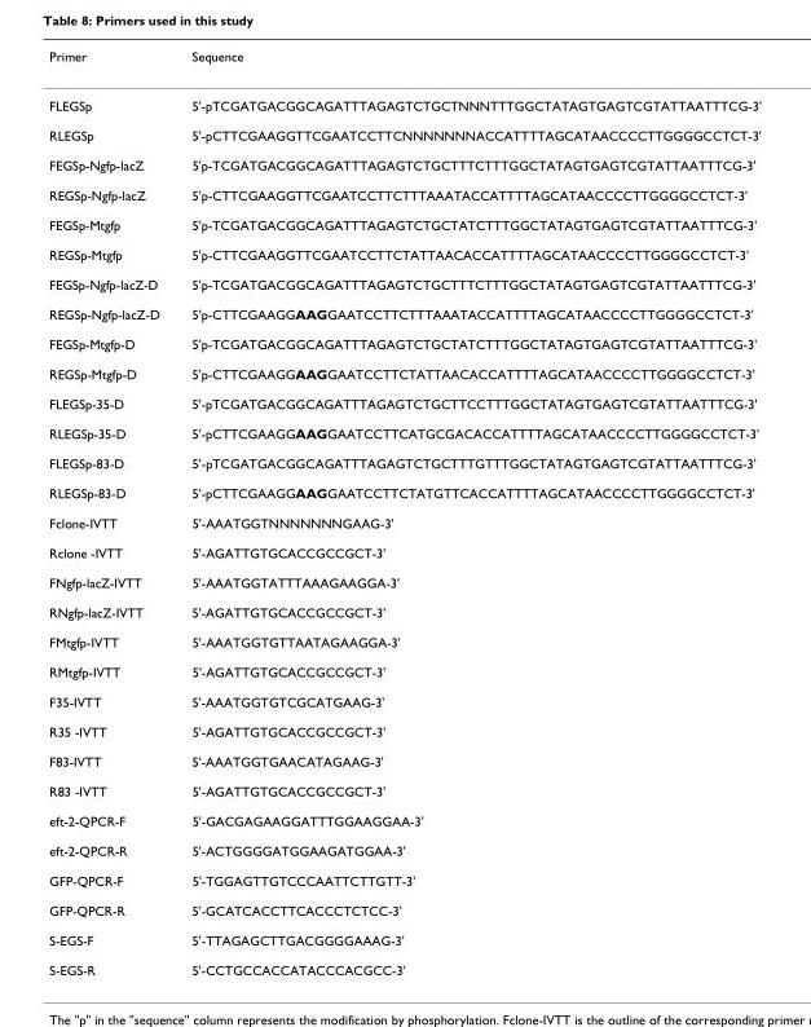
<table><thead><tr><td>Primer</td><td>Sequence</td></tr></thead><tbody><tr><td>FLEGSp</td><td>5&#x27;-pTCGATGACGGCAGATTTAGAGTCTGCTNNNTTTGGCTATAGTGAGTCGTATTAATTTCG-3&#x27;</td></tr><tr><td>RLEGSp</td><td>5&#x27;-pCTTCGAAGGTTCGAATCCTTCNNNNNNNACCATTTTAGCATAACCCCTTGGGGCCTCT-3&#x27;</td></tr><tr><td>FEGSp-Ngfp-lacZ</td><td>5&#x27;p-TCGATGACGGCAGATTTAGAGTCTGCTTTCTTTGGCTATAGTGAGTCGTATTAATTTCG-3&#x27;</td></tr><tr><td>REGSp-Ngfp-lacZ</td><td>5&#x27;p-CTTCGAAGGTTCGAATCCTTCTTTAAATACCATTTTAGCATAACCCCTTGGGGCCTCT-3&#x27;</td></tr><tr><td>FEGSp-Mtgfp</td><td>5&#x27;p-TCGATGACGGCAGATTTAGAGTCTGCTATCTTTGGCTATAGTGAGTCGTATTAATTTCG-3&#x27;</td></tr><tr><td>REGSp-Mtgfp</td><td>5&#x27;p-CTTCGAAGGTTCGAATCCTTCTATTAACACCATTTTAGCATAACCCCTTGGGGCCTCT-3&#x27;</td></tr><tr><td>FEGSp-Ngfp-lacZ-D</td><td>5&#x27;p-TCGATGACGGCAGATTTAGAGTCTGCTTTCTTTGGCTATAGTGAGTCGTATTAATTTCG-3&#x27;</td></tr><tr><td>REGSp-Ngfp-lacZ-D</td><td>5&#x27;p-CTTCGAAGGAAGGAATCCTTCTTTAAATACCATTTTAGCATAACCCCTTGGGGCCTCT-3&#x27;</td></tr><tr><td>FEGSp-Mtgfp-D</td><td>5&#x27;p-TCGATGACGGCAGATTTAGAGTCTGCTATCTTTGGCTATAGTGAGTCGTATTAATTTCG-3&#x27;</td></tr><tr><td>REGSp-Mtgfp-D</td><td>5&#x27;p-CTTCGAAGGAAGGAATCCTTCTATTAACACCATTTTAGCATAACCCCTTGGGGCCTCT-3&#x27;</td></tr><tr><td>FLEGSp-35-D</td><td>5&#x27;-pTCGATGACGGCAGATTTAGAGTCTGCTTCCTTTGGCTATAGTGAGTCGTATTAATTTCG-3&#x27;</td></tr><tr><td>RLEGSp-35-D</td><td>5&#x27;-pCTTCGAAGGAAGGAATCCTTCATGCGACACCATTTTAGCATAACCCCTTGGGGCCTCT-3&#x27;</td></tr><tr><td>FLEGSp-83-D</td><td>5&#x27;-pTCGATGACGGCAGATTTAGAGTCTGCTTTGTTTGGCTATAGTGAGTCGTATTAATTTCG-3&#x27;</td></tr><tr><td>RLEGSp-83-D</td><td>5&#x27;-pCTTCGAAGGAAGGAATCCTTCTATGTTCACCATTTTAGCATAACCCCTTGGGGCCTCT-3&#x27;</td></tr><tr><td>Fclone-IVTT</td><td>5&#x27;-AAATGGTNNNNNNNGAAG-3&#x27;</td></tr><tr><td>Rclone -IVTT</td><td>5&#x27;-AGATTGTGCACCGCCGCT-3&#x27;</td></tr><tr><td>FNgfp-lacZ-IVTT</td><td>5&#x27;-AAATGGTATTTAAAGAAGGA-3&#x27;</td></tr><tr><td>RNgfp-lacZ-IVTT</td><td>5&#x27;-AGATTGTGCACCGCCGCT-3&#x27;</td></tr><tr><td>FMtgfp-IVTT</td><td>5&#x27;-AAATGGTGTTAATAGAAGGA-3&#x27;</td></tr><tr><td>RMtgfp-IVTT</td><td>5&#x27;-AGATTGTGCACCGCCGCT-3&#x27;</td></tr><tr><td>F35-IVTT</td><td>5&#x27;-AAATGGTGTCGCATGAAG-3&#x27;</td></tr><tr><td>R35 -IVTT</td><td>5&#x27;-AGATTGTGCACCGCCGCT-3&#x27;</td></tr><tr><td>F83-IVTT</td><td>5&#x27;-AAATGGTGAACATAGAAG-3&#x27;</td></tr><tr><td>R83 -IVTT</td><td>5&#x27;-AGATTGTGCACCGCCGCT-3&#x27;</td></tr><tr><td>eft-2-QPCR-F</td><td>5&#x27;-GACGAGAAGGATTTGGAAGGAA-3&#x27;</td></tr><tr><td>eft-2-QPCR-R</td><td>5&#x27;-ACTGGGGATGGAAGATGGAA-3&#x27;</td></tr><tr><td>GFP-QPCR-F</td><td>5&#x27;-TGGAGTTGTCCCAATTCTTGTT-3&#x27;</td></tr><tr><td>GFP-QPCR-R</td><td>5&#x27;-GCATCACCTTCACCCTCTCC-3&#x27;</td></tr><tr><td>S-EGS-F</td><td>5&#x27;-TTAGAGCTTGACGGGGAAAG-3&#x27;</td></tr><tr><td>S-EGS-R</td><td>5&#x27;-CCTGCCACCATACCCACGCC-3&#x27;</td></tr></tbody></table>